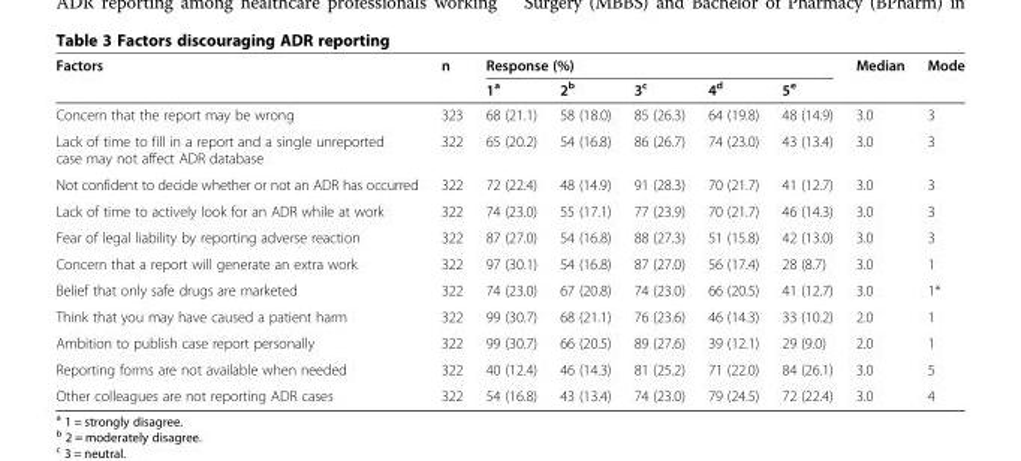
<table><thead><tr><td rowspan="2">Factors</td><td rowspan="2">n</td><td colspan="5">Response (%)</td><td rowspan="2">Median</td><td rowspan="2">Mode</td></tr><tr><td>1<sup>a</sup></td><td>2<sup>b</sup></td><td>3<sup>c</sup></td><td>4<sup>d</sup></td><td>5<sup>e</sup></td></tr></thead><tbody><tr><td>Concern that the report may be wrong</td><td>323</td><td>68 (21.1)</td><td>58 (18.0)</td><td>85 (26.3)</td><td>64 (19.8)</td><td>48 (14.9)</td><td>3.0</td><td>3</td></tr><tr><td>Lack of time to fill in a report and a single unreported case may not affect ADR database</td><td>322</td><td>65 (20.2)</td><td>54 (16.8)</td><td>86 (26.7)</td><td>74 (23.0)</td><td>43 (13.4)</td><td>3.0</td><td>3</td></tr><tr><td>Not confident to decide whether or not an ADR has occurred</td><td>322</td><td>72 (22.4)</td><td>48 (14.9)</td><td>91 (28.3)</td><td>70 (21.7)</td><td>41 (12.7)</td><td>3.0</td><td>3</td></tr><tr><td>Lack of time to actively look for an ADR while at work</td><td>322</td><td>74 (23.0)</td><td>55 (17.1)</td><td>77 (23.9)</td><td>70 (21.7)</td><td>46 (14.3)</td><td>3.0</td><td>3</td></tr><tr><td>Fear of legal liability by reporting adverse reaction</td><td>322</td><td>87 (27.0)</td><td>54 (16.8)</td><td>88 (27.3)</td><td>51 (15.8)</td><td>42 (13.0)</td><td>3.0</td><td>3</td></tr><tr><td>Concern that a report will generate an extra work</td><td>322</td><td>97 (30.1)</td><td>54 (16.8)</td><td>87 (27.0)</td><td>56 (17.4)</td><td>28 (8.7)</td><td>3.0</td><td>1</td></tr><tr><td>Belief that only safe drugs are marketed</td><td>322</td><td>74 (23.0)</td><td>67 (20.8)</td><td>74 (23.0)</td><td>66 (20.5)</td><td>41 (12.7)</td><td>3.0</td><td>1*</td></tr><tr><td>Think that you may have caused a patient harm</td><td>322</td><td>99 (30.7)</td><td>68 (21.1)</td><td>76 (23.6)</td><td>46 (14.3)</td><td>33 (10.2)</td><td>2.0</td><td>1</td></tr><tr><td>Ambition to publish case report personally</td><td>322</td><td>99 (30.7)</td><td>66 (20.5)</td><td>89 (27.6)</td><td>39 (12.1)</td><td>29 (9.0)</td><td>2.0</td><td>1</td></tr><tr><td>Reporting forms are not available when needed</td><td>322</td><td>40 (12.4)</td><td>46 (14.3)</td><td>81 (25.2)</td><td>71 (22.0)</td><td>84 (26.1)</td><td>3.0</td><td>5</td></tr><tr><td>Other colleagues are not reporting ADR cases</td><td>322</td><td>54 (16.8)</td><td>43 (13.4)</td><td>74 (23.0)</td><td>79 (24.5)</td><td>72 (22.4)</td><td>3.0</td><td>4</td></tr></tbody></table>